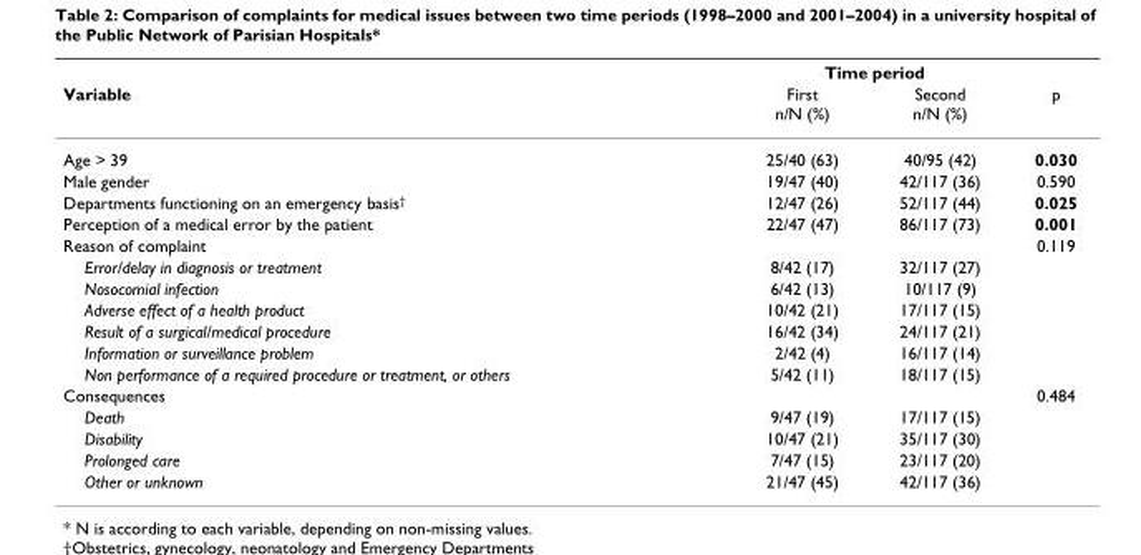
<table><thead><tr><td rowspan="2">Variable</td><td colspan="2">Time period</td><td rowspan="2">p</td></tr><tr><td>First n/N (%)</td><td>Second n/N (%)</td></tr></thead><tbody><tr><td>Age &gt; 39</td><td>25/40 (63)</td><td>40/95 (42)</td><td>0.030</td></tr><tr><td>Male gender</td><td>19/47 (40)</td><td>42/117 (36)</td><td>0.590</td></tr><tr><td>Departments functioning on an emergency basis<sup>†</sup></td><td>12/47 (26)</td><td>52/117 (44)</td><td>0.025</td></tr><tr><td>Perception of a medical error by the patient</td><td>22/47 (47)</td><td>86/117 (73)</td><td>0.001</td></tr><tr><td>Reason of complaint</td><td></td><td></td><td>0.119</td></tr><tr><td>Error/delay in diagnosis or treatment</td><td>8/42 (17)</td><td>32/117 (27)</td><td></td></tr><tr><td>Nosocomial infection</td><td>6/42 (13)</td><td>10/117 (9)</td><td></td></tr><tr><td>Adverse effect of a health product</td><td>10/42 (21)</td><td>17/117 (15)</td><td></td></tr><tr><td>Result of a surgical/medical procedure</td><td>16/42 (34)</td><td>24/117 (21)</td><td></td></tr><tr><td>Information or surveillance problem</td><td>2/42 (4)</td><td>16/117 (14)</td><td></td></tr><tr><td>Non performance of a required procedure or treatment, or others</td><td>5/42 (11)</td><td>18/117 (15)</td><td></td></tr><tr><td>Consequences</td><td></td><td></td><td>0.484</td></tr><tr><td>Death</td><td>9/47 (19)</td><td>17/117 (15)</td><td></td></tr><tr><td>Disability</td><td>10/47 (21)</td><td>35/117 (30)</td><td></td></tr><tr><td>Prolonged care</td><td>7/47 (15)</td><td>23/117 (20)</td><td></td></tr><tr><td>Other or unknown</td><td>21/47 (45)</td><td>42/117 (36)</td><td></td></tr></tbody></table>